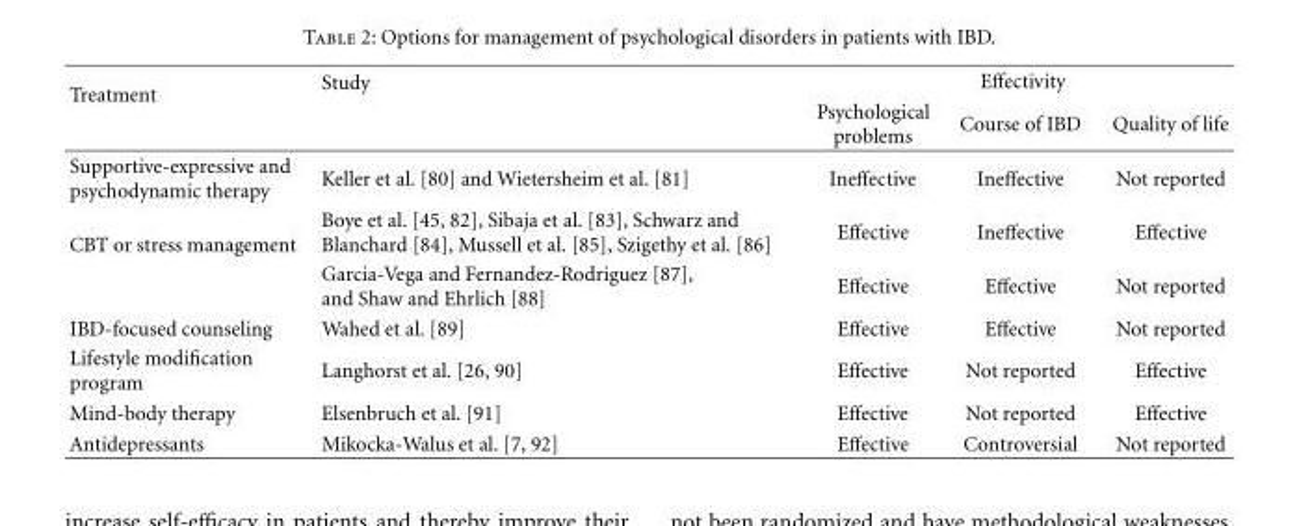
<table><thead><tr><td rowspan="2">Treatment</td><td rowspan="2">Study</td><td colspan="3">Effectivity</td></tr><tr><td>Psychological problems</td><td>Course of IBD</td><td>Quality of life</td></tr></thead><tbody><tr><td>Supportive-expressive and psychodynamic therapy</td><td>Keller et al. [80] and Wietersheim et al. [81]</td><td>Ineffective</td><td>Ineffective</td><td>Not reported</td></tr><tr><td rowspan="2">CBT or stress management</td><td>Boye et al. [45, 82], Sibaja et al. [83], Schwarz and Blanchard [84], Mussell et al. [85], Szigethy et al. [86]</td><td>Effective</td><td>Ineffective</td><td>Effective</td></tr><tr><td>Garcia-Vega and Fernandez-Rodriguez [87], and Shaw and Ehrlich [88]</td><td>Effective</td><td>Effective</td><td>Not reported</td></tr><tr><td>IBD-focused counseling</td><td>Wahed et al. [89]</td><td>Effective</td><td>Effective</td><td>Not reported</td></tr><tr><td>Lifestyle modification program</td><td>Langhorst et al. [26, 90]</td><td>Effective</td><td>Not reported</td><td>Effective</td></tr><tr><td>Mind-body therapy</td><td>Elsenbruch et al. [91]</td><td>Effective</td><td>Not reported</td><td>Effective</td></tr><tr><td>Antidepressants</td><td>Mikocka-Walus et al. [7, 92]</td><td>Effective</td><td>Controversial</td><td>Not reported</td></tr></tbody></table>